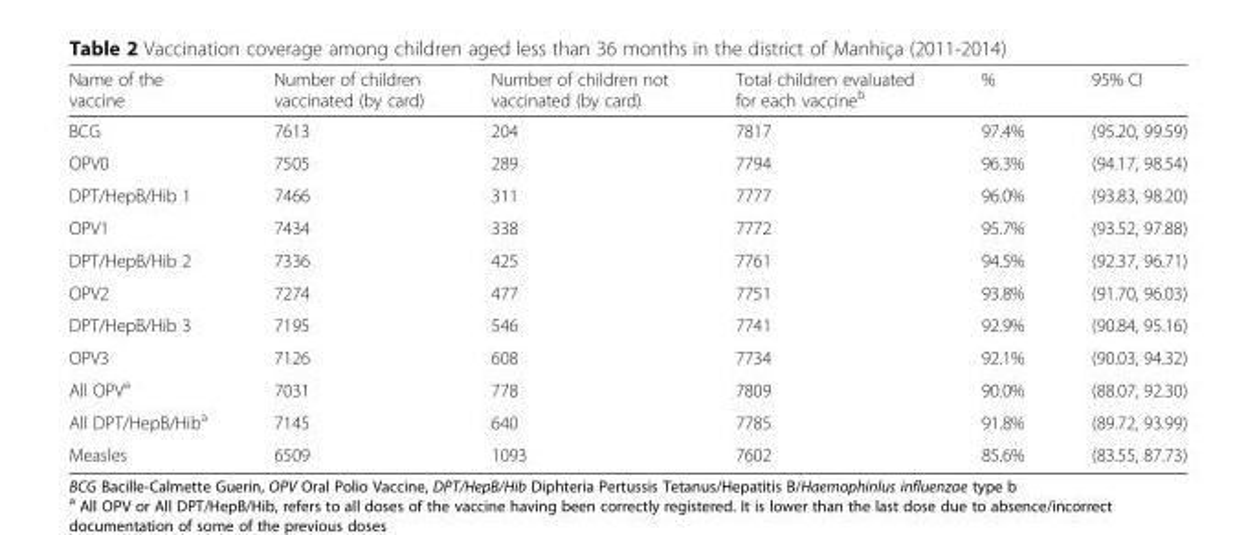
<table><thead><tr><td>Name of the vaccine</td><td>Number of children vaccinated (by card)</td><td>Number of children not vaccinated (by card)</td><td>Total children evaluated for each vaccine<sup>b</sup></td><td>%</td><td>95% CI</td></tr></thead><tbody><tr><td>BCG</td><td>7613</td><td>204</td><td>7817</td><td>97.4%</td><td>(95.20, 99.59)</td></tr><tr><td>OPV0</td><td>7505</td><td>289</td><td>7794</td><td>96.3%</td><td>(94.17, 98.54)</td></tr><tr><td>DPT/HepB/Hib 1</td><td>7466</td><td>311</td><td>7777</td><td>96.0%</td><td>(93.83, 98.20)</td></tr><tr><td>OPV1</td><td>7434</td><td>338</td><td>7772</td><td>95.7%</td><td>(93.52, 97.88)</td></tr><tr><td>DPT/HepB/Hib 2</td><td>7336</td><td>425</td><td>7761</td><td>94.5%</td><td>(92.37, 96.71)</td></tr><tr><td>OPV2</td><td>7274</td><td>477</td><td>7751</td><td>93.8%</td><td>(91.70, 96.03)</td></tr><tr><td>DPT/HepB/Hib 3</td><td>7195</td><td>546</td><td>7741</td><td>92.9%</td><td>(90.84, 95.16)</td></tr><tr><td>OPV3</td><td>7126</td><td>608</td><td>7734</td><td>92.1%</td><td>(90.03, 94.32)</td></tr><tr><td>All OPV<sup>a</sup></td><td>7031</td><td>778</td><td>7809</td><td>90.0%</td><td>(88.07, 92.30)</td></tr><tr><td>All DPT/HepB/Hib<sup>a</sup></td><td>7145</td><td>640</td><td>7785</td><td>91.8%</td><td>(89.72, 93.99)</td></tr><tr><td>Measles</td><td>6509</td><td>1093</td><td>7602</td><td>85.6%</td><td>(83.55, 87.73)</td></tr></tbody></table>